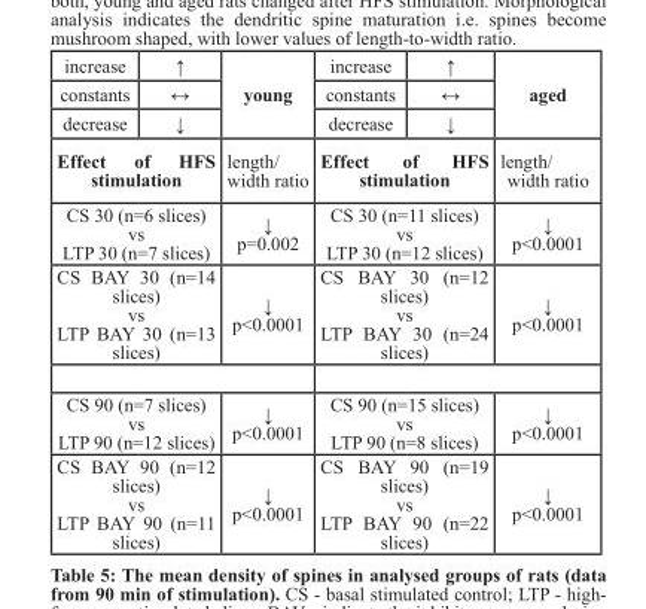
<table><tbody><tr><td>increase</td><td>↑</td><td rowspan="3">young</td><td>increase</td><td>↑</td><td rowspan="3">aged</td></tr><tr><td>constants</td><td>↔</td><td>constants</td><td>↔</td></tr><tr><td>decrease</td><td>↓</td><td>decrease</td><td>↓</td></tr><tr><td colspan="2">Effect of HFS stimulation</td><td>length/ width ratio</td><td colspan="2">Effect of HFS stimulation</td><td>length/ width ratio</td></tr><tr><td colspan="2">CS 30 (n=6 slices) vs LTP 30 (n=7 slices)</td><td>↓ p=0.002</td><td colspan="2">CS 30 (n=11 slices) vs LTP 30 (n=12 slices)</td><td>↓ p&lt;0.0001</td></tr><tr><td colspan="2">CS BAY 30 (n=14 slices) vs LTP BAY 30 (n=13 slices)</td><td>↓ p&lt;0.0001</td><td colspan="2">CS BAY 30 (n=12 slices) vs LTP BAY 30 (n=24 slices)</td><td>↓ p&lt;0.0001</td></tr><tr><td colspan="2">CS 90 (n=7 slices) vs LTP 90 (n=12 slices)</td><td>↓ p&lt;0.0001</td><td colspan="2">CS 90 (n=15 slices) vs LTP 90 (n=8 slices)</td><td>↓ p&lt;0.0001</td></tr><tr><td colspan="2">CS BAY 90 (n=12 slices) vs LTP BAY 90 (n=11 slices)</td><td>↓ p&lt;0.0001</td><td colspan="2">CS BAY 90 (n=19 slices) vs LTP BAY 90 (n=22 slices)</td><td>↓ p&lt;0.0001</td></tr></tbody></table>